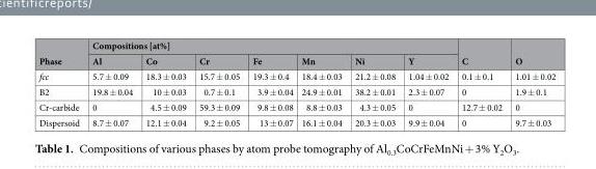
<table><thead><tr><td rowspan="2">Phase</td><td colspan="7">Compositions [at%]</td><td rowspan="2">C</td><td rowspan="2">O</td></tr><tr><td>Al</td><td>Co</td><td>Cr</td><td>Fe</td><td>Mn</td><td>Ni</td><td>Y</td></tr></thead><tbody><tr><td>fcc</td><td>5.7 ± 0.09</td><td>18.3 ± 0.03</td><td>15.7 ± 0.05</td><td>19.3 ± 0.4</td><td>18.4 ± 0.03</td><td>21.2 ± 0.08</td><td>1.04 ± 0.02</td><td>0.1 ± 0.1</td><td>1.01 ± 0.02</td></tr><tr><td>B2</td><td>19.8 ± 0.04</td><td>10 ± 0.03</td><td>0.7 ± 0.1</td><td>3.9 ± 0.04</td><td>24.9 ± 0.01</td><td>38.2 ± 0.01</td><td>2.3 ± 0.07</td><td>0</td><td>1.9 ± 0.1</td></tr><tr><td>Cr-carbide</td><td>0</td><td>4.5 ± 0.09</td><td>59.3 ± 0.09</td><td>9.8 ± 0.08</td><td>8.8 ± 0.03</td><td>4.3 ± 0.05</td><td>0</td><td>12.7 ± 0.02</td><td>0</td></tr><tr><td>Dispersoid</td><td>8.7 ± 0.07</td><td>12.1 ± 0.04</td><td>9.2 ± 0.05</td><td>13 ± 0.07</td><td>16.1 ± 0.04</td><td>20.3 ± 0.03</td><td>9.9 ± 0.04</td><td>0</td><td>9.7 ± 0.03</td></tr></tbody></table>